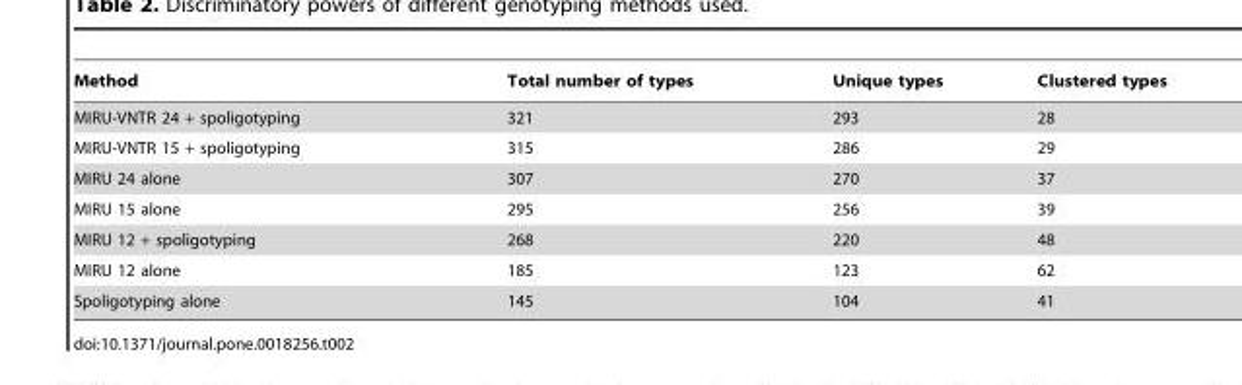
<table><thead><tr><td>Method</td><td>Total number of types</td><td>Unique types</td><td>Clustered types</td></tr></thead><tbody><tr><td>MIRU-VNTR 24 + spoligotyping</td><td>321</td><td>293</td><td>28</td></tr><tr><td>MIRU-VNTR 15 + spoligotyping</td><td>315</td><td>286</td><td>29</td></tr><tr><td>MIRU 24 alone</td><td>307</td><td>270</td><td>37</td></tr><tr><td>MIRU 15 alone</td><td>295</td><td>256</td><td>39</td></tr><tr><td>MIRU 12 + spoligotyping</td><td>268</td><td>220</td><td>48</td></tr><tr><td>MIRU 12 alone</td><td>185</td><td>123</td><td>62</td></tr><tr><td>Spoligotyping alone</td><td>145</td><td>104</td><td>41</td></tr></tbody></table>